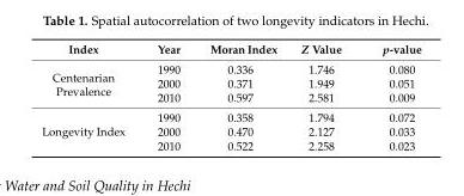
<table><thead><tr><td>Index</td><td>Year</td><td>Moran Index</td><td>Z Value</td><td>p-value</td></tr></thead><tbody><tr><td rowspan="3">Centenarian Prevalence</td><td>1990</td><td>0.336</td><td>1.746</td><td>0.080</td></tr><tr><td>2000</td><td>0.371</td><td>1.949</td><td>0.051</td></tr><tr><td>2010</td><td>0.597</td><td>2.581</td><td>0.009</td></tr><tr><td rowspan="3">Longevity Index</td><td>1990</td><td>0.358</td><td>1.794</td><td>0.072</td></tr><tr><td>2000</td><td>0.470</td><td>2.127</td><td>0.033</td></tr><tr><td>2010</td><td>0.522</td><td>2.258</td><td>0.023</td></tr></tbody></table>